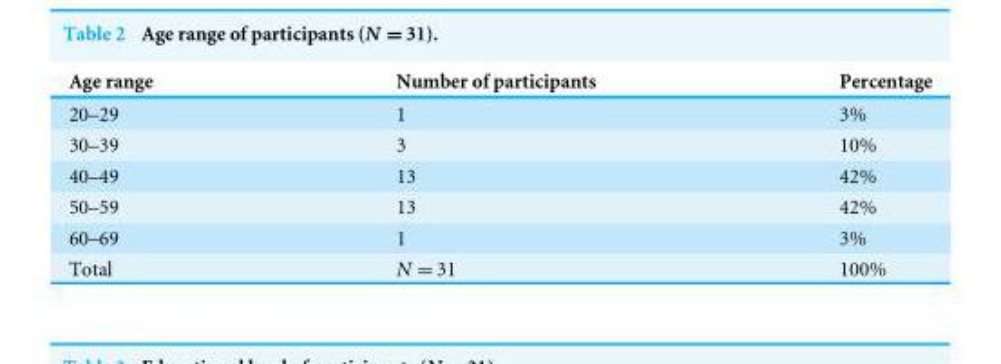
<table><thead><tr><td>Age range</td><td>Number of participants</td><td>Percentage</td></tr></thead><tbody><tr><td>20–29</td><td>1</td><td>3%</td></tr><tr><td>30–39</td><td>3</td><td>10%</td></tr><tr><td>40–49</td><td>13</td><td>42%</td></tr><tr><td>50–59</td><td>13</td><td>42%</td></tr><tr><td>60–69</td><td>1</td><td>3%</td></tr><tr><td>Total</td><td>N = 31</td><td>100%</td></tr></tbody></table>